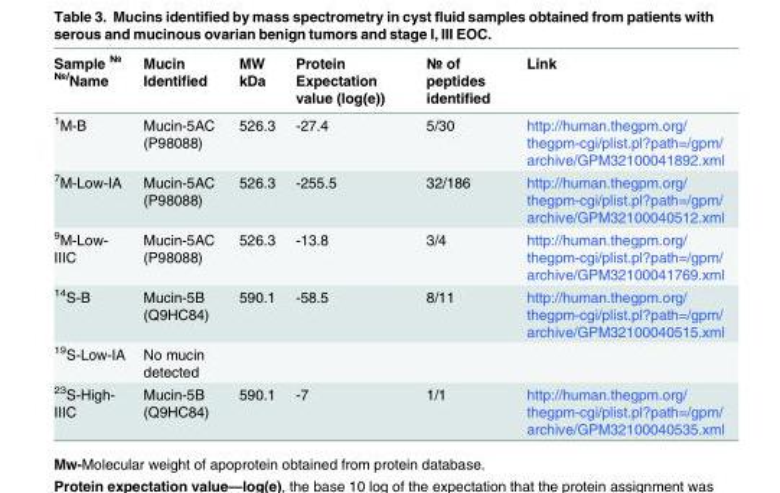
<table><thead><tr><td>Sample № №/Name</td><td>Mucin Identified</td><td>MW kDa</td><td>Protein Expectation value (log(e))</td><td>№ of peptides identified</td><td>Link</td></tr></thead><tbody><tr><td><sup>1</sup>M-B</td><td>Mucin-5AC (P98088)</td><td>526.3</td><td>-27.4</td><td>5/30</td><td>http://human.thegpm.org/ thegpm-cgi/plist.pl?path=/gpm/ archive/GPM32100041892.xml</td></tr><tr><td><sup>7</sup>M-Low-IA</td><td>Mucin-5AC (P98088)</td><td>526.3</td><td>-255.5</td><td>32/186</td><td>http://human.thegpm.org/ thegpm-cgi/plist.pl?path=/gpm/ archive/GPM32100040512.xml</td></tr><tr><td><sup>9</sup>M-Low- IIIC</td><td>Mucin-5AC (P98088)</td><td>526.3</td><td>-13.8</td><td>3/4</td><td>http://human.thegpm.org/ thegpm-cgi/plist.pl?path=/gpm/ archive/GPM32100041769.xml</td></tr><tr><td><sup>14</sup>S-B</td><td>Mucin-5B (Q9HC84)</td><td>590.1</td><td>-58.5</td><td>8/11</td><td>http://human.thegpm.org/ thegpm-cgi/plist.pl?path=/gpm/ archive/GPM32100040515.xml</td></tr><tr><td><sup>19</sup>S-Low-IA</td><td>No mucin detected</td><td></td><td></td><td></td><td></td></tr><tr><td><sup>23</sup>S-High- IIIC</td><td>Mucin-5B (Q9HC84)</td><td>590.1</td><td>-7</td><td>1/1</td><td>http://human.thegpm.org/ thegpm-cgi/plist.pl?path=/gpm/ archive/GPM32100040535.xml</td></tr></tbody></table>